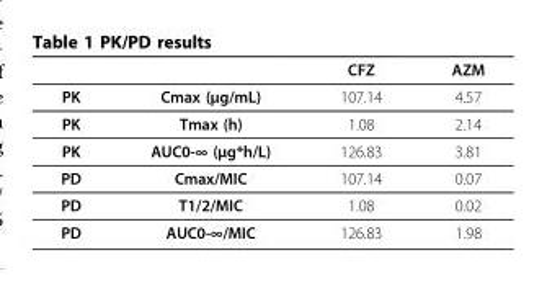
<table><thead><tr><td></td><td></td><td>CFZ</td><td>AZM</td></tr></thead><tbody><tr><td>PK</td><td>Cmax (µg/mL)</td><td>107.14</td><td>4.57</td></tr><tr><td>PK</td><td>Tmax (h)</td><td>1.08</td><td>2.14</td></tr><tr><td>PK</td><td>AUC0-∞ (µg*h/L)</td><td>126.83</td><td>3.81</td></tr><tr><td>PD</td><td>Cmax/MIC</td><td>107.14</td><td>0.07</td></tr><tr><td>PD</td><td>T1/2/MIC</td><td>1.08</td><td>0.02</td></tr><tr><td>PD</td><td>AUC0-∞/MIC</td><td>126.83</td><td>1.98</td></tr></tbody></table>